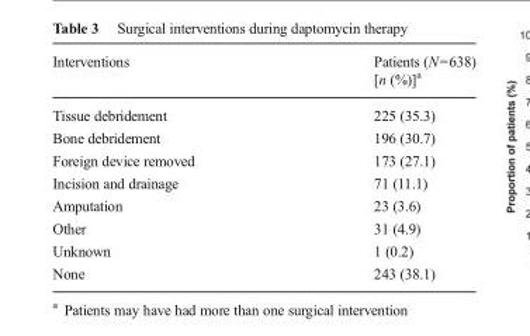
<table><thead><tr><td>Interventions</td><td>Patients (N=638) [n (%)]<sup>a</sup></td></tr></thead><tbody><tr><td>Tissue debridement</td><td>225 (35.3)</td></tr><tr><td>Bone debridement</td><td>196 (30.7)</td></tr><tr><td>Foreign device removed</td><td>173 (27.1)</td></tr><tr><td>Incision and drainage</td><td>71 (11.1)</td></tr><tr><td>Amputation</td><td>23 (3.6)</td></tr><tr><td>Other</td><td>31 (4.9)</td></tr><tr><td>Unknown</td><td>1 (0.2)</td></tr><tr><td>None</td><td>243 (38.1)</td></tr></tbody></table>